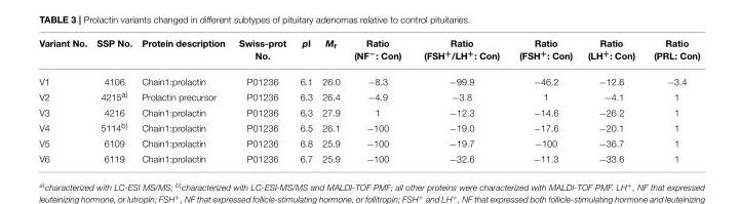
<table><thead><tr><td>Variant No.</td><td>SSP No.</td><td>Protein description</td><td>Swiss-prot No.</td><td>pI</td><td>M<sub>r</sub></td><td>Ratio (NF<sup>−</sup>: Con)</td><td>Ratio (FSH<sup>+</sup>/LH<sup>+</sup>: Con)</td><td>Ratio (FSH<sup>+</sup>: Con)</td><td>Ratio (LH<sup>+</sup>: Con)</td><td>Ratio (PRL: Con)</td></tr></thead><tbody><tr><td>V1</td><td>4106</td><td>Chain1:prolactin</td><td>P01236</td><td>6.1</td><td>26.0</td><td>−8.3</td><td>−99.9</td><td>−46.2</td><td>−12.6</td><td>−3.4</td></tr><tr><td>V2</td><td>4215<sup>a)</sup></td><td>Prolactin precursor</td><td>P01236</td><td>6.3</td><td>26.4</td><td>−4.9</td><td>−3.8</td><td>1</td><td>−4.1</td><td>1</td></tr><tr><td>V3</td><td>4216</td><td>Chain1:prolactin</td><td>P01236</td><td>6.3</td><td>27.9</td><td>1</td><td>−12.3</td><td>−14.6</td><td>−26.2</td><td>1</td></tr><tr><td>V4</td><td>5114<sup>b)</sup></td><td>Chain1:prolactin</td><td>P01236</td><td>6.5</td><td>26.1</td><td>−100</td><td>−19.0</td><td>−17.6</td><td>−20.1</td><td>1</td></tr><tr><td>V5</td><td>6109</td><td>Chain1:prolactin</td><td>P01236</td><td>6.8</td><td>25.9</td><td>−100</td><td>−19.7</td><td>−100</td><td>−36.7</td><td>1</td></tr><tr><td>V6</td><td>6119</td><td>Chain1:prolactin</td><td>P01236</td><td>6.7</td><td>25.9</td><td>−100</td><td>−32.6</td><td>−11.3</td><td>−33.6</td><td>1</td></tr></tbody></table>